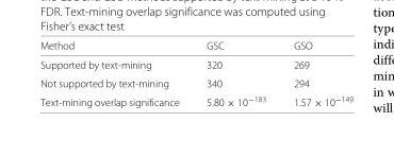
<table><thead><tr><td>Method</td><td>GSC</td><td>GSO</td></tr></thead><tbody><tr><td>Supported by text-mining</td><td>320</td><td>269</td></tr><tr><td>Not supported by text-mining</td><td>340</td><td>294</td></tr><tr><td>Text-mining overlap significance</td><td>5.80 × 10<sup>−183</sup></td><td>1.57 × 10<sup>−149</sup></td></tr></tbody></table>